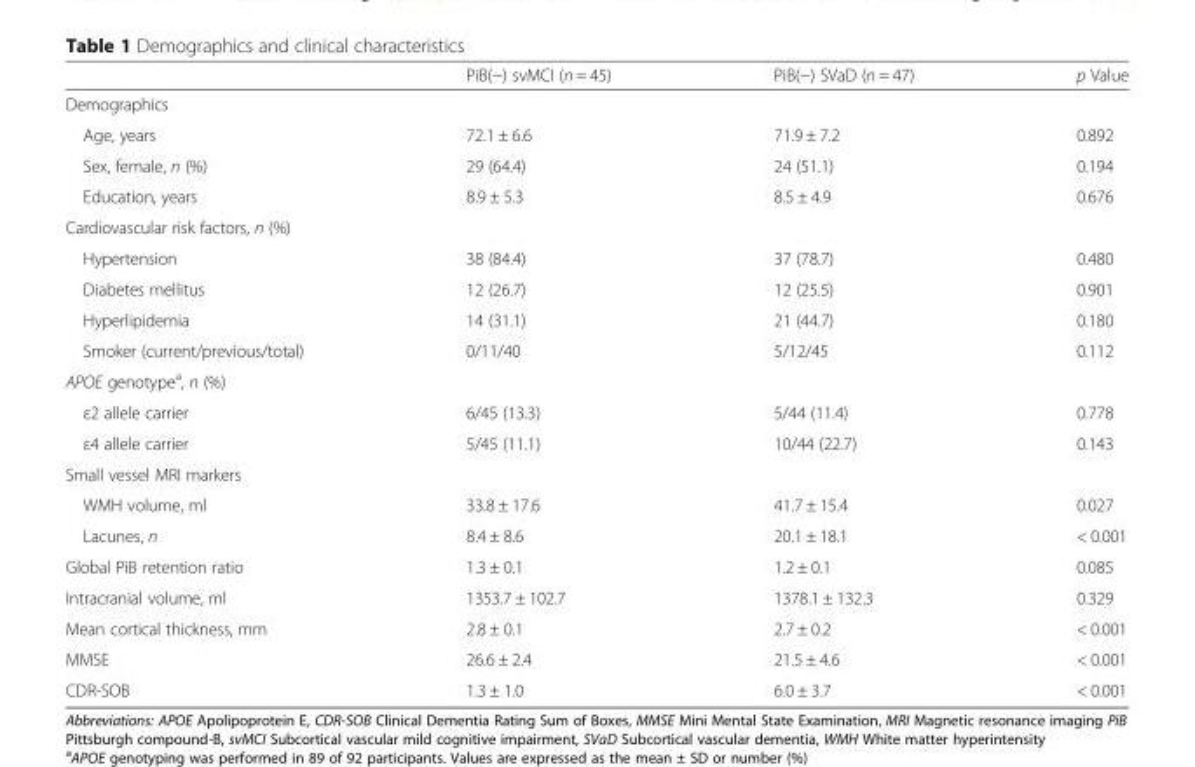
<table><thead><tr><td></td><td>PiB(−) svMCI (n = 45)</td><td>PiB(−) SVaD (n = 47)</td><td>p Value</td></tr></thead><tbody><tr><td colspan="4">Demographics</td></tr><tr><td>Age, years</td><td>72.1 ± 6.6</td><td>71.9 ± 7.2</td><td>0.892</td></tr><tr><td>Sex, female, n (%)</td><td>29 (64.4)</td><td>24 (51.1)</td><td>0.194</td></tr><tr><td>Education, years</td><td>8.9 ± 5.3</td><td>8.5 ± 4.9</td><td>0.676</td></tr><tr><td colspan="4">Cardiovascular risk factors, n (%)</td></tr><tr><td>Hypertension</td><td>38 (84.4)</td><td>37 (78.7)</td><td>0.480</td></tr><tr><td>Diabetes mellitus</td><td>12 (26.7)</td><td>12 (25.5)</td><td>0.901</td></tr><tr><td>Hyperlipidemia</td><td>14 (31.1)</td><td>21 (44.7)</td><td>0.180</td></tr><tr><td>Smoker (current/previous/total)</td><td>0/11/40</td><td>5/12/45</td><td>0.112</td></tr><tr><td colspan="4">APOE genotype<sup>a</sup>, n (%)</td></tr><tr><td>ε2 allele carrier</td><td>6/45 (13.3)</td><td>5/44 (11.4)</td><td>0.778</td></tr><tr><td>ε4 allele carrier</td><td>5/45 (11.1)</td><td>10/44 (22.7)</td><td>0.143</td></tr><tr><td colspan="4">Small vessel MRI markers</td></tr><tr><td>WMH volume, ml</td><td>33.8 ± 17.6</td><td>41.7 ± 15.4</td><td>0.027</td></tr><tr><td>Lacunes, n</td><td>8.4 ± 8.6</td><td>20.1 ± 18.1</td><td>&lt; 0.001</td></tr><tr><td>Global PiB retention ratio</td><td>1.3 ± 0.1</td><td>1.2 ± 0.1</td><td>0.085</td></tr><tr><td>Intracranial volume, ml</td><td>1353.7 ± 102.7</td><td>1378.1 ± 132.3</td><td>0.329</td></tr><tr><td>Mean cortical thickness, mm</td><td>2.8 ± 0.1</td><td>2.7 ± 0.2</td><td>&lt; 0.001</td></tr><tr><td>MMSE</td><td>26.6 ± 2.4</td><td>21.5 ± 4.6</td><td>&lt; 0.001</td></tr><tr><td>CDR-SOB</td><td>1.3 ± 1.0</td><td>6.0 ± 3.7</td><td>&lt; 0.001</td></tr></tbody></table>